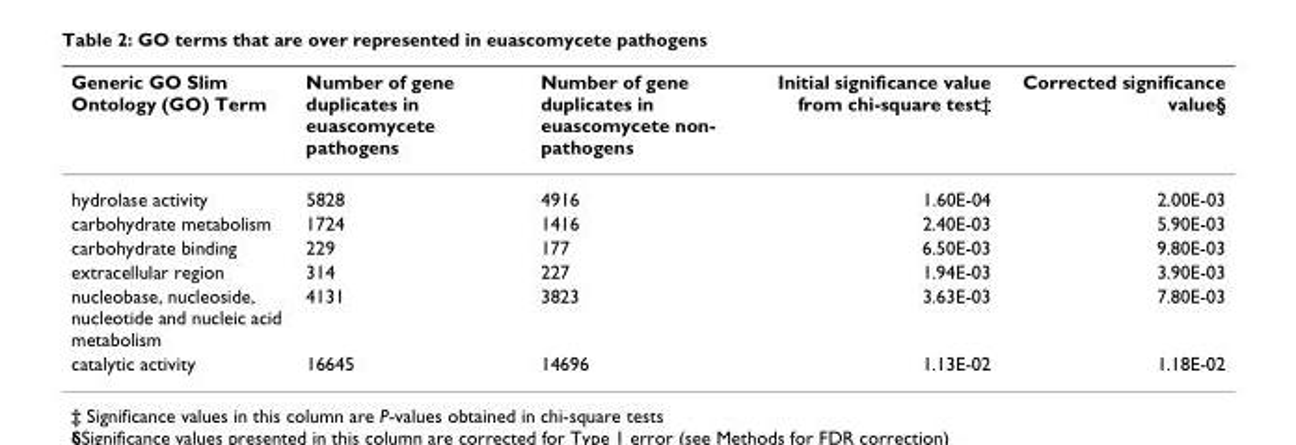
<table><thead><tr><td>Generic GO Slim Ontology (GO) Term</td><td>Number of gene duplicates in euascomycete pathogens</td><td>Number of gene duplicates in euascomycete non- pathogens</td><td>Initial significance value from chi-square test‡</td><td>Corrected significance value§</td></tr></thead><tbody><tr><td>hydrolase activity</td><td>5828</td><td>4916</td><td>1.60E-04</td><td>2.00E-03</td></tr><tr><td>carbohydrate metabolism</td><td>1724</td><td>1416</td><td>2.40E-03</td><td>5.90E-03</td></tr><tr><td>carbohydrate binding</td><td>229</td><td>177</td><td>6.50E-03</td><td>9.80E-03</td></tr><tr><td>extracellular region</td><td>314</td><td>227</td><td>1.94E-03</td><td>3.90E-03</td></tr><tr><td>nucleobase, nucleoside, nucleotide and nucleic acid metabolism</td><td>4131</td><td>3823</td><td>3.63E-03</td><td>7.80E-03</td></tr><tr><td>catalytic activity</td><td>16645</td><td>14696</td><td>1.13E-02</td><td>1.18E-02</td></tr></tbody></table>